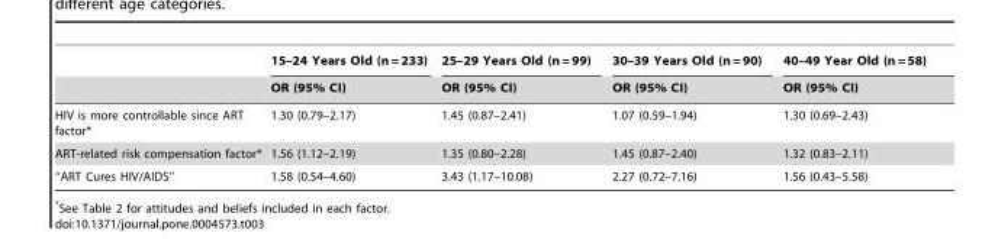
<table><thead><tr><td rowspan="2"></td><td rowspan="2">15–24 Years Old (n = 233) OR (95% CI)</td><td rowspan="2">25–29 Years Old (n = 99) OR (95% CI)</td><td rowspan="2">30–39 Years Old (n = 90) OR (95% CI)</td><td rowspan="2">40–49 Year Old (n = 58) OR (95% CI)</td></tr><tr></tr></thead><tbody><tr><td>HIV is more controllable since ART factor*</td><td>1.30 (0.79–2.17)</td><td>1.45 (0.87–2.41)</td><td>1.07 (0.59–1.94)</td><td>1.30 (0.69–2.43)</td></tr><tr><td>ART-related risk compensation factor*</td><td>1.56 (1.12–2.19)</td><td>1.35 (0.80–2.28)</td><td>1.45 (0.87–2.40)</td><td>1.32 (0.83–2.11)</td></tr><tr><td>‘‘ART Cures HIV/AIDS’’</td><td>1.58 (0.54–4.60)</td><td>3.43 (1.17–10.08)</td><td>2.27 (0.72–7.16)</td><td>1.56 (0.43–5.58)</td></tr></tbody></table>